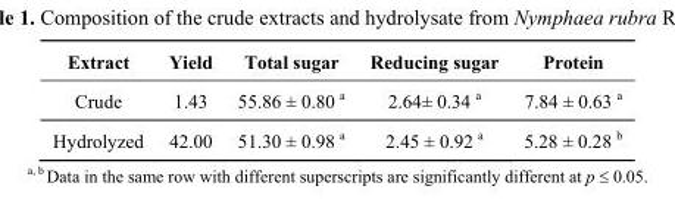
<table><thead><tr><td>Extract</td><td>Yield</td><td>Total sugar</td><td>Reducing sugar</td><td>Protein</td></tr></thead><tbody><tr><td>Crude</td><td>1.43</td><td>55.86 ± 0.80 a</td><td>2.64± 0.34 a</td><td>7.84 ± 0.63 a</td></tr><tr><td>Hydrolyzed</td><td>42.00</td><td>51.30 ± 0.98 a</td><td>2.45 ± 0.92 a</td><td>5.28 ± 0.28 b</td></tr></tbody></table>